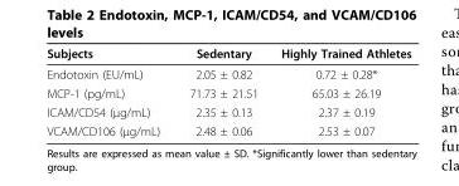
<table><thead><tr><td>Subjects</td><td>Sedentary</td><td>Highly Trained Athletes</td></tr></thead><tbody><tr><td>Endotoxin (EU/mL)</td><td>2.05 ± 0.82</td><td>0.72 ± 0.28*</td></tr><tr><td>MCP-1 (pg/mL)</td><td>71.73 ± 21.51</td><td>65.03 ± 26.19</td></tr><tr><td>ICAM/CD54 (μg/mL)</td><td>2.35 ± 0.13</td><td>2.37 ± 0.19</td></tr><tr><td>VCAM/CD106 (μg/mL)</td><td>2.48 ± 0.06</td><td>2.53 ± 0.07</td></tr></tbody></table>